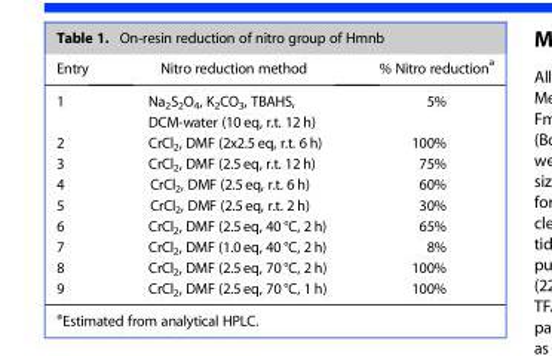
<table><thead><tr><td>Entry</td><td>Nitro reduction method</td><td>% Nitro reduction<sup>a</sup></td></tr></thead><tbody><tr><td>1</td><td>Na<sub>2</sub>S<sub>2</sub>O<sub>4</sub>, K<sub>2</sub>CO<sub>3</sub>, TBAHS, DCM-water (10 eq, r.t. 12 h)</td><td>5%</td></tr><tr><td>2</td><td>CrCl<sub>2</sub>, DMF (2x2.5 eq, r.t. 6 h)</td><td>100%</td></tr><tr><td>3</td><td>CrCl<sub>2</sub>, DMF (2.5 eq, r.t. 12 h)</td><td>75%</td></tr><tr><td>4</td><td>CrCl<sub>2</sub>, DMF (2.5 eq, r.t. 6 h)</td><td>60%</td></tr><tr><td>5</td><td>CrCl<sub>2</sub>, DMF (2.5 eq, r.t. 2 h)</td><td>30%</td></tr><tr><td>6</td><td>CrCl<sub>2</sub>, DMF (2.5 eq, 40 °C, 2 h)</td><td>65%</td></tr><tr><td>7</td><td>CrCl<sub>2</sub>, DMF (1.0 eq, 40 °C, 2 h)</td><td>8%</td></tr><tr><td>8</td><td>CrCl<sub>2</sub>, DMF (2.5 eq, 70 °C, 2 h)</td><td>100%</td></tr><tr><td>9</td><td>CrCl<sub>2</sub>, DMF (2.5 eq, 70 °C, 1 h)</td><td>100%</td></tr></tbody></table>